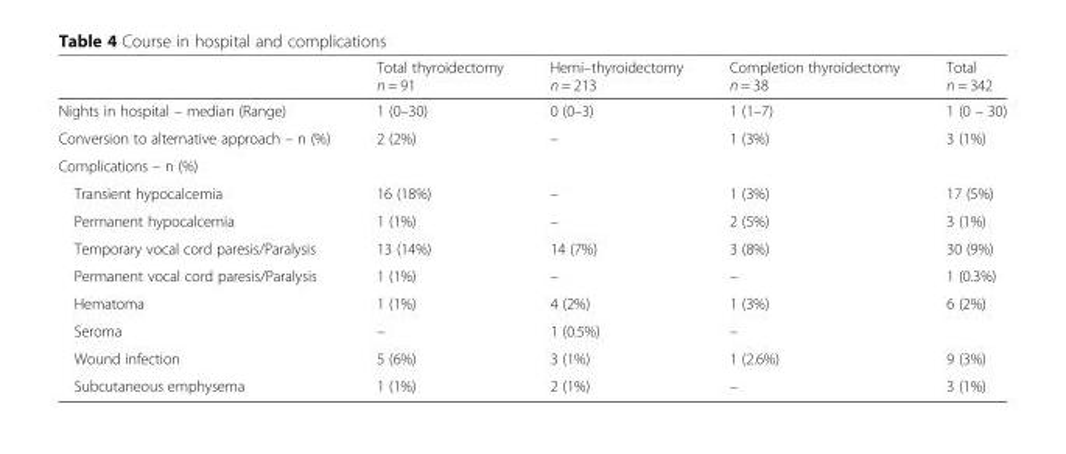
<table><thead><tr><td></td><td>Total thyroidectomy n = 91</td><td>Hemi–thyroidectomy n = 213</td><td>Completion thyroidectomy n = 38</td><td>Total n = 342</td></tr></thead><tbody><tr><td>Nights in hospital – median (Range)</td><td>1 (0–30)</td><td>0 (0–3)</td><td>1 (1–7)</td><td>1 (0 – 30)</td></tr><tr><td>Conversion to alternative approach – n (%)</td><td>2 (2%)</td><td>–</td><td>1 (3%)</td><td>3 (1%)</td></tr><tr><td colspan="5">Complications – n (%)</td></tr><tr><td>Transient hypocalcemia</td><td>16 (18%)</td><td>–</td><td>1 (3%)</td><td>17 (5%)</td></tr><tr><td>Permanent hypocalcemia</td><td>1 (1%)</td><td>–</td><td>2 (5%)</td><td>3 (1%)</td></tr><tr><td>Temporary vocal cord paresis/Paralysis</td><td>13 (14%)</td><td>14 (7%)</td><td>3 (8%)</td><td>30 (9%)</td></tr><tr><td>Permanent vocal cord paresis/Paralysis</td><td>1 (1%)</td><td>–</td><td>–</td><td>1 (0.3%)</td></tr><tr><td>Hematoma</td><td>1 (1%)</td><td>4 (2%)</td><td>1 (3%)</td><td>6 (2%)</td></tr><tr><td>Seroma</td><td>–</td><td>1 (0.5%)</td><td>–</td><td></td></tr><tr><td>Wound infection</td><td>5 (6%)</td><td>3 (1%)</td><td>1 (2.6%)</td><td>9 (3%)</td></tr><tr><td>Subcutaneous emphysema</td><td>1 (1%)</td><td>2 (1%)</td><td>–</td><td>3 (1%)</td></tr></tbody></table>